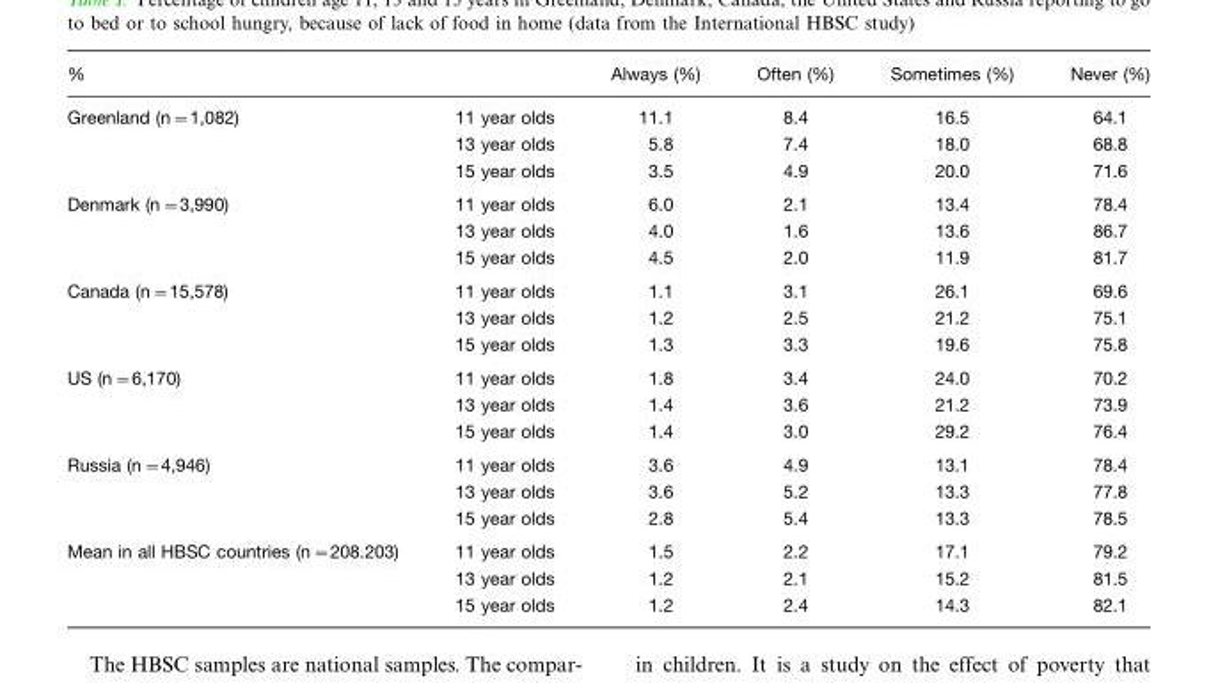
<table><thead><tr><td>%</td><td></td><td>Always (%)</td><td>Often (%)</td><td>Sometimes (%)</td><td>Never (%)</td></tr></thead><tbody><tr><td rowspan="3">Greenland (n=1,082)</td><td>11 year olds</td><td>11.1</td><td>8.4</td><td>16.5</td><td>64.1</td></tr><tr><td>13 year olds</td><td>5.8</td><td>7.4</td><td>18.0</td><td>68.8</td></tr><tr><td>15 year olds</td><td>3.5</td><td>4.9</td><td>20.0</td><td>71.6</td></tr><tr><td rowspan="3">Denmark (n=3,990)</td><td>11 year olds</td><td>6.0</td><td>2.1</td><td>13.4</td><td>78.4</td></tr><tr><td>13 year olds</td><td>4.0</td><td>1.6</td><td>13.6</td><td>86.7</td></tr><tr><td>15 year olds</td><td>4.5</td><td>2.0</td><td>11.9</td><td>81.7</td></tr><tr><td rowspan="3">Canada (n=15,578)</td><td>11 year olds</td><td>1.1</td><td>3.1</td><td>26.1</td><td>69.6</td></tr><tr><td>13 year olds</td><td>1.2</td><td>2.5</td><td>21.2</td><td>75.1</td></tr><tr><td>15 year olds</td><td>1.3</td><td>3.3</td><td>19.6</td><td>75.8</td></tr><tr><td rowspan="3">US (n=6,170)</td><td>11 year olds</td><td>1.8</td><td>3.4</td><td>24.0</td><td>70.2</td></tr><tr><td>13 year olds</td><td>1.4</td><td>3.6</td><td>21.2</td><td>73.9</td></tr><tr><td>15 year olds</td><td>1.4</td><td>3.0</td><td>29.2</td><td>76.4</td></tr><tr><td rowspan="3">Russia (n=4,946)</td><td>11 year olds</td><td>3.6</td><td>4.9</td><td>13.1</td><td>78.4</td></tr><tr><td>13 year olds</td><td>3.6</td><td>5.2</td><td>13.3</td><td>77.8</td></tr><tr><td>15 year olds</td><td>2.8</td><td>5.4</td><td>13.3</td><td>78.5</td></tr><tr><td rowspan="3">Mean in all HBSC countries (n=208.203)</td><td>11 year olds</td><td>1.5</td><td>2.2</td><td>17.1</td><td>79.2</td></tr><tr><td>13 year olds</td><td>1.2</td><td>2.1</td><td>15.2</td><td>81.5</td></tr><tr><td>15 year olds</td><td>1.2</td><td>2.4</td><td>14.3</td><td>82.1</td></tr></tbody></table>